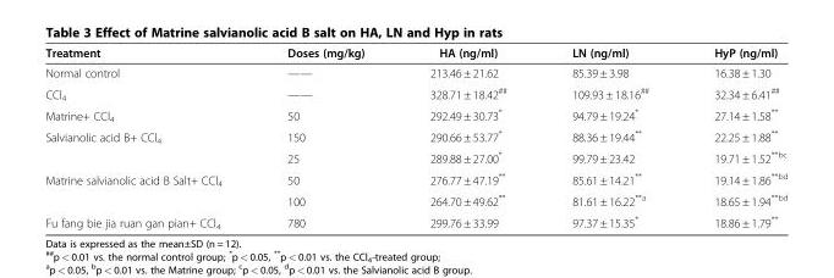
<table><thead><tr><td>Treatment</td><td>Doses (mg/kg)</td><td>HA (ng/ml)</td><td>LN (ng/ml)</td><td>HyP (ng/ml)</td></tr></thead><tbody><tr><td>Normal control</td><td>——</td><td>213.46 ± 21.62</td><td>85.39 ± 3.98</td><td>16.38 ± 1.30</td></tr><tr><td>CCl<sub>4</sub></td><td>——</td><td>328.71 ± 18.42<sup>##</sup></td><td>109.93 ± 18.16<sup>##</sup></td><td>32.34 ± 6.41<sup>##</sup></td></tr><tr><td>Matrine+ CCl<sub>4</sub></td><td>50</td><td>292.49 ± 30.73*</td><td>94.79 ± 19.24*</td><td>27.14 ± 1.58**</td></tr><tr><td rowspan="2">Salvianolic acid B+ CCl<sub>4</sub></td><td>150</td><td>290.66 ± 53.77*</td><td>88.36 ± 19.44**</td><td>22.25 ± 1.88**</td></tr><tr><td>25</td><td>289.88 ± 27.00*</td><td>99.79 ± 23.42</td><td>19.71 ± 1.52<sup>**bc</sup></td></tr><tr><td rowspan="2">Matrine salvianolic acid B Salt+ CCl<sub>4</sub></td><td>50</td><td>276.77 ± 47.19**</td><td>85.61 ± 14.21**</td><td>19.14 ± 1.86<sup>**bd</sup></td></tr><tr><td>100</td><td>264.70 ± 49.62**</td><td>81.61 ± 16.22<sup>**a</sup></td><td>18.65 ± 1.94<sup>**bd</sup></td></tr><tr><td>Fu fang bie jia ruan gan pian+ CCl<sub>4</sub></td><td>780</td><td>299.76 ± 33.99</td><td>97.37 ± 15.35*</td><td>18.86 ± 1.79**</td></tr></tbody></table>